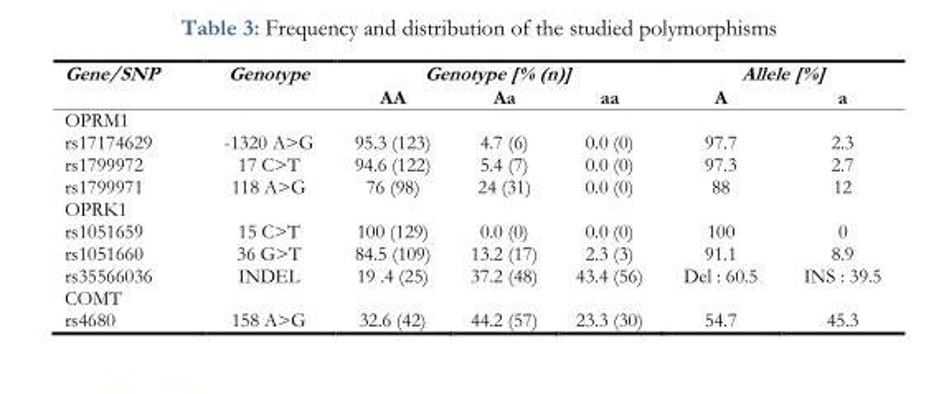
<table><thead><tr><td rowspan="2">Gene/SNP</td><td rowspan="2">Genotype</td><td colspan="3">Genotype [% (n)]</td><td colspan="2">Allele [%]</td></tr><tr><td>AA</td><td>Aa</td><td>aa</td><td>A</td><td>a</td></tr></thead><tbody><tr><td colspan="7">OPRM1</td></tr><tr><td>rs17174629</td><td>-1320 A&gt;G</td><td>95.3 (123)</td><td>4.7 (6)</td><td>0.0 (0)</td><td>97.7</td><td>2.3</td></tr><tr><td>rs1799972</td><td>17 C&gt;T</td><td>94.6 (122)</td><td>5.4 (7)</td><td>0.0 (0)</td><td>97.3</td><td>2.7</td></tr><tr><td>rs1799971</td><td>118 A&gt;G</td><td>76 (98)</td><td>24 (31)</td><td>0.0 (0)</td><td>88</td><td>12</td></tr><tr><td colspan="7">OPRK1</td></tr><tr><td>rs1051659</td><td>15 C&gt;T</td><td>100 (129)</td><td>0.0 (0)</td><td>0.0 (0)</td><td>100</td><td>0</td></tr><tr><td>rs1051660</td><td>36 G&gt;T</td><td>84.5 (109)</td><td>13.2 (17)</td><td>2.3 (3)</td><td>91.1</td><td>8.9</td></tr><tr><td>rs35566036</td><td>INDEL</td><td>19 .4 (25)</td><td>37.2 (48)</td><td>43.4 (56)</td><td>Del : 60.5</td><td>INS : 39.5</td></tr><tr><td colspan="7">COMT</td></tr><tr><td>rs4680</td><td>158 A&gt;G</td><td>32.6 (42)</td><td>44.2 (57)</td><td>23.3 (30)</td><td>54.7</td><td>45.3</td></tr></tbody></table>